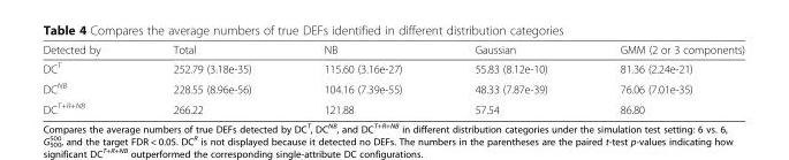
<table><thead><tr><td>Detected by</td><td>Total</td><td>NB</td><td>Gaussian</td><td>GMM (2 or 3 components)</td></tr></thead><tbody><tr><td>DC<sup>T</sup></td><td>252.79 (3.18e-35)</td><td>115.60 (3.16e-27)</td><td>55.83 (8.12e-10)</td><td>81.36 (2.24e-21)</td></tr><tr><td>DC<sup>NB</sup></td><td>228.55 (8.96e-56)</td><td>104.16 (7.39e-55)</td><td>48.33 (7.87e-39)</td><td>76.06 (7.01e-35)</td></tr><tr><td>DC<sup>T+R+NB</sup></td><td>266.22</td><td>121.88</td><td>57.54</td><td>86.80</td></tr></tbody></table>